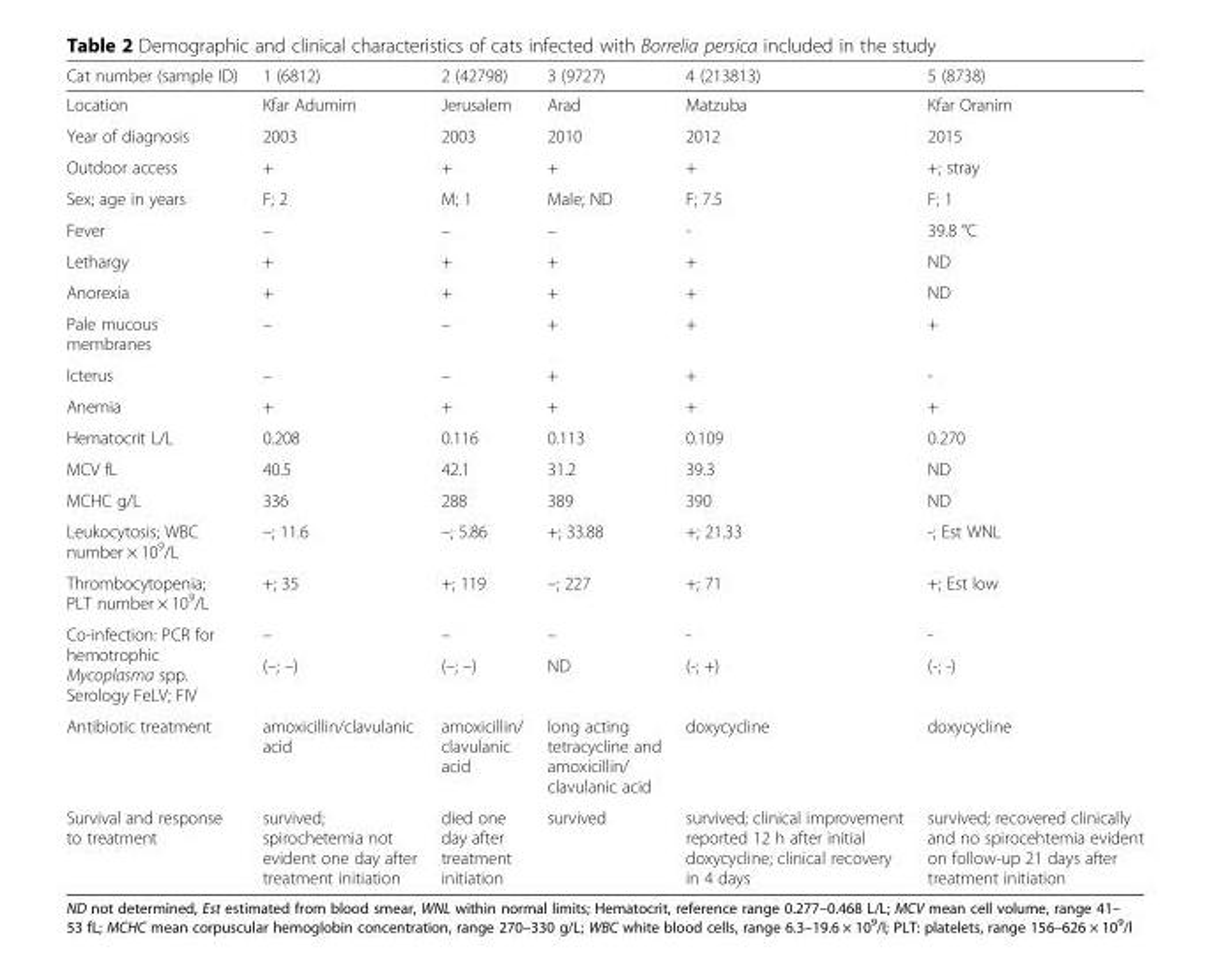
<table><thead><tr><td>Cat number (sample ID)</td><td>1 (6812)</td><td>2 (42798)</td><td>3 (9727)</td><td>4 (213813)</td><td>5 (8738)</td></tr></thead><tbody><tr><td>Location</td><td>Kfar Adumim</td><td>Jerusalem</td><td>Arad</td><td>Matzuba</td><td>Kfar Oranim</td></tr><tr><td>Year of diagnosis</td><td>2003</td><td>2003</td><td>2010</td><td>2012</td><td>2015</td></tr><tr><td>Outdoor access</td><td>+</td><td>+</td><td>+</td><td>+</td><td>+; stray</td></tr><tr><td>Sex; age in years</td><td>F; 2</td><td>M; 1</td><td>Male; ND</td><td>F; 7.5</td><td>F; 1</td></tr><tr><td>Fever</td><td>–</td><td>–</td><td>–</td><td>-</td><td>39.8 °C</td></tr><tr><td>Lethargy</td><td>+</td><td>+</td><td>+</td><td>+</td><td>ND</td></tr><tr><td>Anorexia</td><td>+</td><td>+</td><td>+</td><td>+</td><td>ND</td></tr><tr><td>Pale mucous membranes</td><td>–</td><td>–</td><td>+</td><td>+</td><td>+</td></tr><tr><td>Icterus</td><td>–</td><td>–</td><td>+</td><td>+</td><td>-</td></tr><tr><td>Anemia</td><td>+</td><td>+</td><td>+</td><td>+</td><td>+</td></tr><tr><td>Hematocrit L/L</td><td>0.208</td><td>0.116</td><td>0.113</td><td>0.109</td><td>0.270</td></tr><tr><td>MCV fL</td><td>40.5</td><td>42.1</td><td>31.2</td><td>39.3</td><td>ND</td></tr><tr><td>MCHC g/L</td><td>336</td><td>288</td><td>389</td><td>390</td><td>ND</td></tr><tr><td>Leukocytosis; WBC number × 10<sup>9</sup>/L</td><td>–; 11.6</td><td>–; 5.86</td><td>+; 33.88</td><td>+; 21.33</td><td>-; Est WNL</td></tr><tr><td>Thrombocytopenia; PLT number × 10<sup>9</sup>/L</td><td>+; 35</td><td>+; 119</td><td>–; 227</td><td>+; 71</td><td>+; Est low</td></tr><tr><td rowspan="2">Co-infection: PCR for hemotrophic Mycoplasma spp. Serology FeLV; FIV</td><td>–</td><td>–</td><td>–</td><td>-</td><td>-</td></tr><tr><td>(–; –)</td><td>(–; –)</td><td>ND</td><td>(-; +)</td><td>(-; -)</td></tr><tr><td>Antibiotic treatment</td><td>amoxicillin/clavulanic acid</td><td>amoxicillin/ clavulanic acid</td><td>long acting tetracycline and amoxicillin/ clavulanic acid</td><td>doxycycline</td><td>doxycycline</td></tr><tr><td>Survival and response to treatment</td><td>survived; spirochetemia not evident one day after treatment initiation</td><td>died one day after treatment initiation</td><td>survived</td><td>survived; clinical improvement reported 12 h after initial doxycycline; clinical recovery in 4 days</td><td>survived; recovered clinically and no spirocehtemia evident on follow-up 21 days after treatment initiation</td></tr></tbody></table>